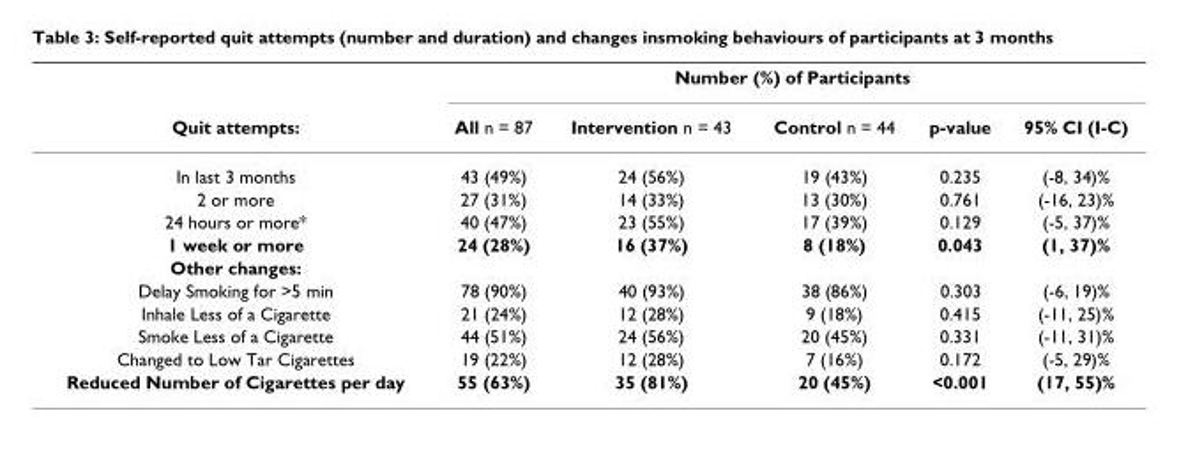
<table><thead><tr><td rowspan="2">Quit attempts:</td><td colspan="5">Number (%) of Participants</td></tr><tr><td>All n = 87</td><td>Intervention n = 43</td><td>Control n = 44</td><td>p-value</td><td>95% CI (I-C)</td></tr></thead><tbody><tr><td>In last 3 months</td><td>43 (49%)</td><td>24 (56%)</td><td>19 (43%)</td><td>0.235</td><td>(-8, 34)%</td></tr><tr><td>2 or more</td><td>27 (31%)</td><td>14 (33%)</td><td>13 (30%)</td><td>0.761</td><td>(-16, 23)%</td></tr><tr><td>24 hours or more*</td><td>40 (47%)</td><td>23 (55%)</td><td>17 (39%)</td><td>0.129</td><td>(-5, 37)%</td></tr><tr><td>1 week or more</td><td>24 (28%)</td><td>16 (37%)</td><td>8 (18%)</td><td>0.043</td><td>(1, 37)%</td></tr><tr><td colspan="6">Other changes:</td></tr><tr><td>Delay Smoking for &gt;5 min</td><td>78 (90%)</td><td>40 (93%)</td><td>38 (86%)</td><td>0.303</td><td>(-6, 19)%</td></tr><tr><td>Inhale Less of a Cigarette</td><td>21 (24%)</td><td>12 (28%)</td><td>9 (18%)</td><td>0.415</td><td>(-11, 25)%</td></tr><tr><td>Smoke Less of a Cigarette</td><td>44 (51%)</td><td>24 (56%)</td><td>20 (45%)</td><td>0.331</td><td>(-11, 31)%</td></tr><tr><td>Changed to Low Tar Cigarettes</td><td>19 (22%)</td><td>12 (28%)</td><td>7 (16%)</td><td>0.172</td><td>(-5, 29)%</td></tr><tr><td>Reduced Number of Cigarettes per day</td><td>55 (63%)</td><td>35 (81%)</td><td>20 (45%)</td><td>&lt;0.001</td><td>(17, 55)%</td></tr></tbody></table>